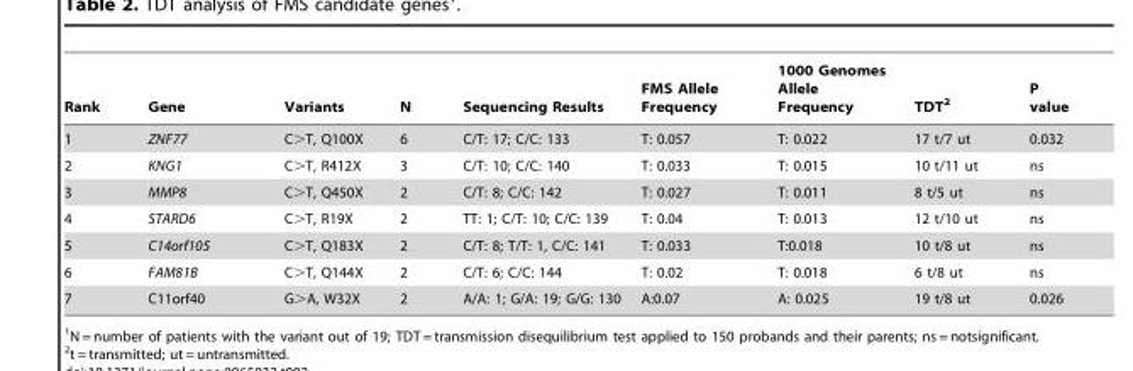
<table><thead><tr><td>Rank</td><td>Gene</td><td>Variants</td><td>N</td><td>Sequencing Results</td><td>FMS Allele Frequency</td><td>1000 Genomes Allele Frequency</td><td>TDT<sup>2</sup></td><td>P value</td></tr></thead><tbody><tr><td>1</td><td>ZNF77</td><td>C&gt;T, Q100X</td><td>6</td><td>C/T: 17; C/C: 133</td><td>T: 0.057</td><td>T: 0.022</td><td>17 t/7 ut</td><td>0.032</td></tr><tr><td>2</td><td>KNG1</td><td>C&gt;T, R412X</td><td>3</td><td>C/T: 10; C/C: 140</td><td>T: 0.033</td><td>T: 0.015</td><td>10 t/11 ut</td><td>ns</td></tr><tr><td>3</td><td>MMP8</td><td>C&gt;T, Q450X</td><td>2</td><td>C/T: 8; C/C: 142</td><td>T: 0.027</td><td>T: 0.011</td><td>8 t/5 ut</td><td>ns</td></tr><tr><td>4</td><td>STARD6</td><td>C&gt;T, R19X</td><td>2</td><td>TT: 1; C/T: 10; C/C: 139</td><td>T: 0.04</td><td>T: 0.013</td><td>12 t/10 ut</td><td>ns</td></tr><tr><td>5</td><td>C14orf105</td><td>C&gt;T, Q183X</td><td>2</td><td>C/T: 8; T/T: 1, C/C: 141</td><td>T: 0.033</td><td>T:0.018</td><td>10 t/8 ut</td><td>ns</td></tr><tr><td>6</td><td>FAM81B</td><td>C&gt;T, Q144X</td><td>2</td><td>C/T: 6; C/C: 144</td><td>T: 0.02</td><td>T: 0.018</td><td>6 t/8 ut</td><td>ns</td></tr><tr><td>7</td><td>C11orf40</td><td>G&gt;A, W32X</td><td>2</td><td>A/A: 1; G/A: 19; G/G: 130</td><td>A:0.07</td><td>A: 0.025</td><td>19 t/8 ut</td><td>0.026</td></tr></tbody></table>